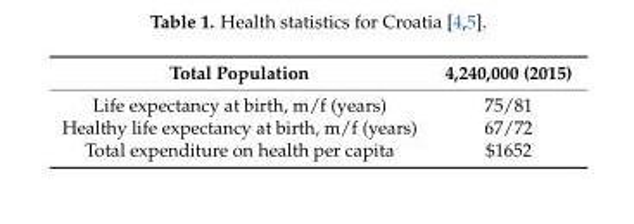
<table><thead><tr><td>Total Population</td><td>4,240,000 (2015)</td></tr></thead><tbody><tr><td>Life expectancy at birth, m/f (years)</td><td>75/81</td></tr><tr><td>Healthy life expectancy at birth, m/f (years)</td><td>67/72</td></tr><tr><td>Total expenditure on health per capita</td><td>$1652</td></tr></tbody></table>